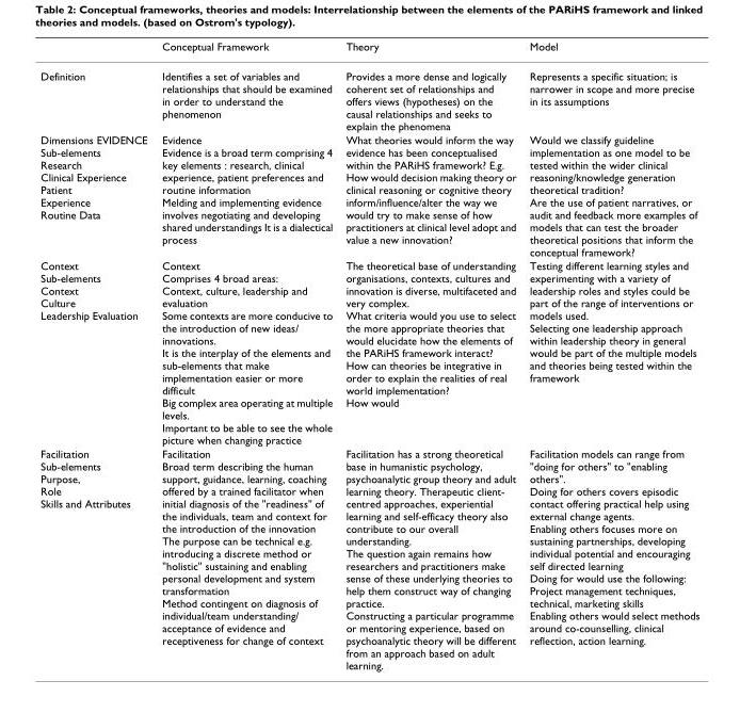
<table><thead><tr><td></td><td>Conceptual Framework</td><td>Theory</td><td>Model</td></tr></thead><tbody><tr><td>Definition</td><td>Identifies a set of variables and relationships that should be examined in order to understand the phenomenon</td><td>Provides a more dense and logically coherent set of relationships and offers views (hypotheses) on the causal relationships and seeks to explain the phenomena</td><td>Represents a specific situation; is narrower in scope and more precise in its assumptions</td></tr><tr><td>Dimensions EVIDENCE Sub-elements Research Clinical Experience Patient Experience Routine Data</td><td>Evidence Evidence is a broad term comprising 4 key elements : research, clinical experience, patient preferences and routine information Melding and implementing evidence involves negotiating and developing shared understandings It is a dialectical process</td><td>What theories would inform the way evidence has been conceptualised within the PARiHS framework? E.g. How would decision making theory or clinical reasoning or cognitive theory inform/influence/alter the way we would try to make sense of how practitioners at clinical level adopt and value a new innovation?</td><td>Would we classify guideline implementation as one model to be tested within the wider clinical reasoning/knowledge generation theoretical tradition? Are the use of patient narratives, or audit and feedback more examples of models that can test the broader theoretical positions that inform the conceptual framework?</td></tr><tr><td>Context Sub-elements Context Culture Leadership Evaluation</td><td>Context Comprises 4 broad areas: Context, culture, leadership and evaluation Some contexts are more conducive to the introduction of new ideas/ innovations. It is the interplay of the elements and sub-elements that make implementation easier or more difficult Big complex area operating at multiple levels. Important to be able to see the whole picture when changing practice</td><td>The theoretical base of understanding organisations, contexts, cultures and innovation is diverse, multifaceted and very complex. What criteria would you use to select the more appropriate theories that would elucidate how the elements of the PARiHS framework interact? How can theories be integrative in order to explain the realities of real world implementation? How would</td><td>Testing different learning styles and experimenting with a variety of leadership roles and styles could be part of the range of interventions or models used. Selecting one leadership approach within leadership theory in general would be part of the multiple models and theories being tested within the framework</td></tr><tr><td>Facilitation Sub-elements Purpose, Role Skills and Attributes</td><td>Facilitation Broad term describing the human support, guidance, learning, coaching offered by a trained facilitator when initial diagnosis of the &quot;readiness&quot; of the individuals, team and context for the introduction of the innovation The purpose can be technical e.g. introducing a discrete method or &quot;holistic&quot; sustaining and enabling personal development and system transformation Method contingent on diagnosis of individual/team understanding/ acceptance of evidence and receptiveness for change of context</td><td>Facilitation has a strong theoretical base in humanistic psychology, psychoanalytic group theory and adult learning theory. Therapeutic client- centred approaches, experiential learning and self-efficacy theory also contribute to our overall understanding. The question again remains how researchers and practitioners make sense of these underlying theories to help them construct way of changing practice. Constructing a particular programme or mentoring experience, based on psychoanalytic theory will be different from an approach based on adult learning.</td><td>Facilitation models can range from &quot;doing for others&quot; to &quot;enabling others&quot;. Doing for others covers episodic contact offering practical help using external change agents. Enabling others focuses more on sustaining partnerships, developing individual potential and encouraging self directed learning Doing for would use the following: Project management techniques, technical, marketing skills Enabling others would select methods around co-counselling, clinical reflection, action learning.</td></tr></tbody></table>